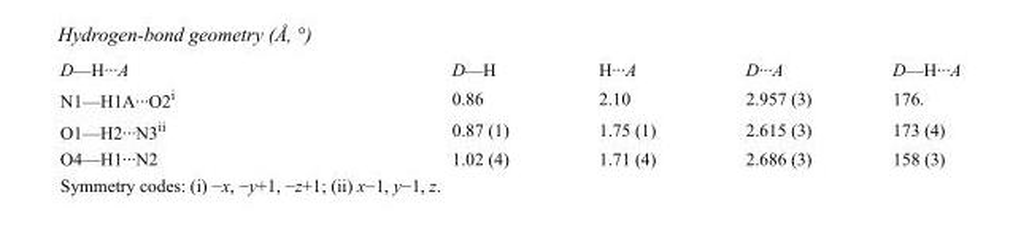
<table><tbody><tr><td>D—H···A</td><td>D—H</td><td>H···A</td><td>D···A</td><td>D—H···A</td></tr><tr><td>N1—H1A···O2<sup>i</sup></td><td>0.86</td><td>2.10</td><td>2.957 (3)</td><td>176.</td></tr><tr><td>O1—H2···N3<sup>ii</sup></td><td>0.87 (1)</td><td>1.75 (1)</td><td>2.615 (3)</td><td>173 (4)</td></tr><tr><td>O4—H1···N2</td><td>1.02 (4)</td><td>1.71 (4)</td><td>2.686 (3)</td><td>158 (3)</td></tr></tbody></table>